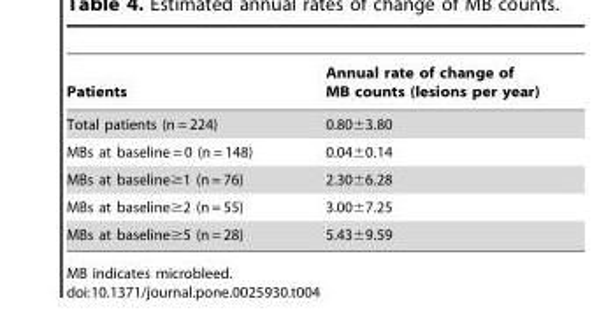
<table><thead><tr><td>Patients</td><td>Annual rate of change of MB counts (lesions per year)</td></tr></thead><tbody><tr><td>Total patients (n = 224)</td><td>0.80±3.80</td></tr><tr><td>MBs at baseline = 0 (n = 148)</td><td>0.04±0.14</td></tr><tr><td>MBs at baseline≥1 (n = 76)</td><td>2.30±6.28</td></tr><tr><td>MBs at baseline≥2 (n = 55)</td><td>3.00±7.25</td></tr><tr><td>MBs at baseline≥5 (n = 28)</td><td>5.43±9.59</td></tr></tbody></table>